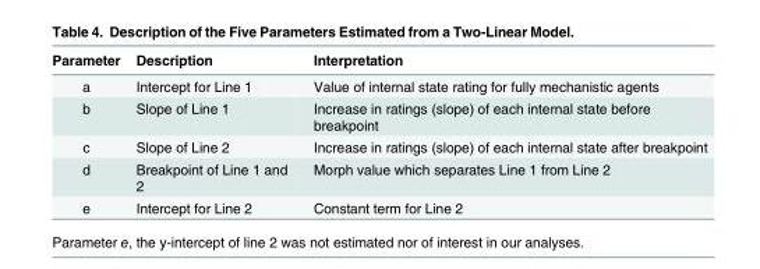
<table><thead><tr><td>Parameter</td><td>Description</td><td>Interpretation</td></tr></thead><tbody><tr><td>a</td><td>Intercept for Line 1</td><td>Value of internal state rating for fully mechanistic agents</td></tr><tr><td>b</td><td>Slope of Line 1</td><td>Increase in ratings (slope) of each internal state before breakpoint</td></tr><tr><td>c</td><td>Slope of Line 2</td><td>Increase in ratings (slope) of each internal state after breakpoint</td></tr><tr><td>d</td><td>Breakpoint of Line 1 and 2</td><td>Morph value which separates Line 1 from Line 2</td></tr><tr><td>e</td><td>Intercept for Line 2</td><td>Constant term for Line 2</td></tr></tbody></table>